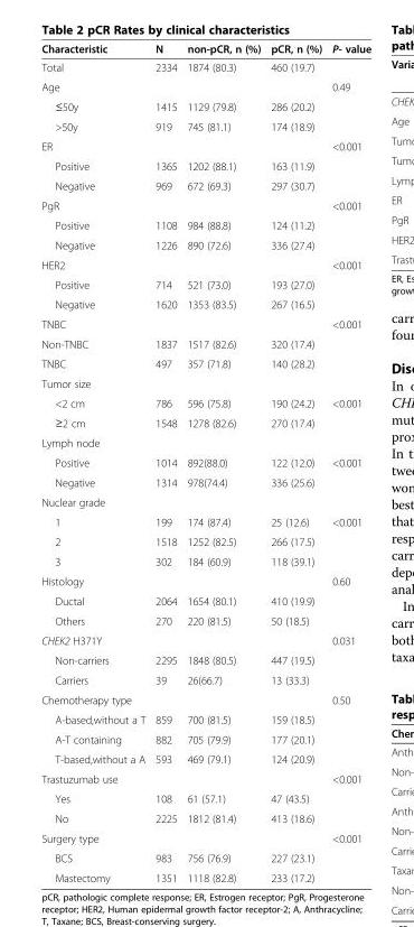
<table><thead><tr><td>Characteristic</td><td>N</td><td>non-pCR, n (%)</td><td>pCR, n (%)</td><td>P- value</td></tr></thead><tbody><tr><td>Total</td><td>2334</td><td>1874 (80.3)</td><td>460 (19.7)</td><td></td></tr><tr><td>Age</td><td></td><td></td><td></td><td>0.49</td></tr><tr><td>≤50y</td><td>1415</td><td>1129 (79.8)</td><td>286 (20.2)</td><td></td></tr><tr><td>&gt;50y</td><td>919</td><td>745 (81.1)</td><td>174 (18.9)</td><td></td></tr><tr><td>ER</td><td></td><td></td><td></td><td>&lt;0.001</td></tr><tr><td>Positive</td><td>1365</td><td>1202 (88.1)</td><td>163 (11.9)</td><td></td></tr><tr><td>Negative</td><td>969</td><td>672 (69.3)</td><td>297 (30.7)</td><td></td></tr><tr><td>PgR</td><td></td><td></td><td></td><td>&lt;0.001</td></tr><tr><td>Positive</td><td>1108</td><td>984 (88.8)</td><td>124 (11.2)</td><td></td></tr><tr><td>Negative</td><td>1226</td><td>890 (72.6)</td><td>336 (27.4)</td><td></td></tr><tr><td>HER2</td><td></td><td></td><td></td><td>&lt;0.001</td></tr><tr><td>Positive</td><td>714</td><td>521 (73.0)</td><td>193 (27.0)</td><td></td></tr><tr><td>Negative</td><td>1620</td><td>1353 (83.5)</td><td>267 (16.5)</td><td></td></tr><tr><td>TNBC</td><td></td><td></td><td></td><td>&lt;0.001</td></tr><tr><td>Non-TNBC</td><td>1837</td><td>1517 (82.6)</td><td>320 (17.4)</td><td></td></tr><tr><td>TNBC</td><td>497</td><td>357 (71.8)</td><td>140 (28.2)</td><td></td></tr><tr><td colspan="5">Tumor size</td></tr><tr><td>&lt;2 cm</td><td>786</td><td>596 (75.8)</td><td>190 (24.2)</td><td>&lt;0.001</td></tr><tr><td>≥2 cm</td><td>1548</td><td>1278 (82.6)</td><td>270 (17.4)</td><td></td></tr><tr><td colspan="5">Lymph node</td></tr><tr><td>Positive</td><td>1014</td><td>892(88.0)</td><td>122 (12.0)</td><td>&lt;0.001</td></tr><tr><td>Negative</td><td>1314</td><td>978(74.4)</td><td>336 (25.6)</td><td></td></tr><tr><td colspan="5">Nuclear grade</td></tr><tr><td>1</td><td>199</td><td>174 (87.4)</td><td>25 (12.6)</td><td>&lt;0.001</td></tr><tr><td>2</td><td>1518</td><td>1252 (82.5)</td><td>266 (17.5)</td><td></td></tr><tr><td>3</td><td>302</td><td>184 (60.9)</td><td>118 (39.1)</td><td></td></tr><tr><td>Histology</td><td></td><td></td><td></td><td>0.60</td></tr><tr><td>Ductal</td><td>2064</td><td>1654 (80.1)</td><td>410 (19.9)</td><td></td></tr><tr><td>Others</td><td>270</td><td>220 (81.5)</td><td>50 (18.5)</td><td></td></tr><tr><td>CHEK2 H371Y</td><td></td><td></td><td></td><td>0.031</td></tr><tr><td>Non-carriers</td><td>2295</td><td>1848 (80.5)</td><td>447 (19.5)</td><td></td></tr><tr><td>Carriers</td><td>39</td><td>26(66.7)</td><td>13 (33.3)</td><td></td></tr><tr><td>Chemotherapy type</td><td></td><td></td><td></td><td>0.50</td></tr><tr><td>A-based,without a T</td><td>859</td><td>700 (81.5)</td><td>159 (18.5)</td><td></td></tr><tr><td>A-T containing</td><td>882</td><td>705 (79.9)</td><td>177 (20.1)</td><td></td></tr><tr><td>T-based,without a A</td><td>593</td><td>469 (79.1)</td><td>124 (20.9)</td><td></td></tr><tr><td>Trastuzumab use</td><td></td><td></td><td></td><td>&lt;0.001</td></tr><tr><td>Yes</td><td>108</td><td>61 (57.1)</td><td>47 (43.5)</td><td></td></tr><tr><td>No</td><td>2225</td><td>1812 (81.4)</td><td>413 (18.6)</td><td></td></tr><tr><td>Surgery type</td><td></td><td></td><td></td><td>&lt;0.001</td></tr><tr><td>BCS</td><td>983</td><td>756 (76.9)</td><td>227 (23.1)</td><td></td></tr><tr><td>Mastectomy</td><td>1351</td><td>1118 (82.8)</td><td>233 (17.2)</td><td></td></tr></tbody></table>